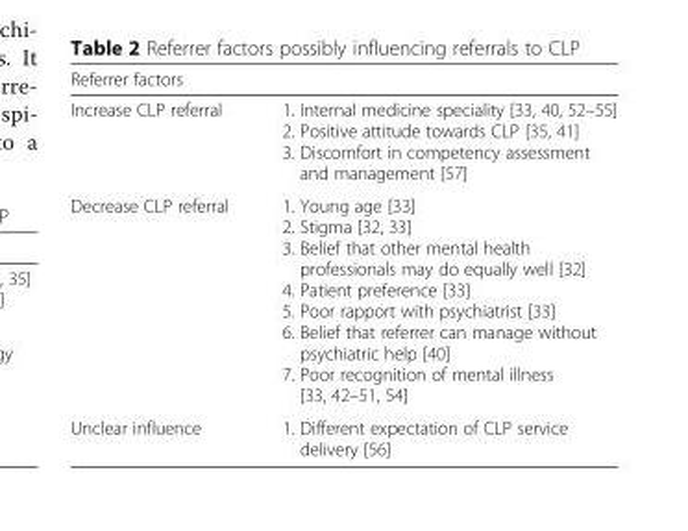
<table><thead><tr><td colspan="2">Referrer factors</td></tr><tr><td>Increase CLP referral</td><td>1. Internal medicine speciality [33, 40, 52–55] 2. Positive attitude towards CLP [35, 41] 3. Discomfort in competency assessment and management [57]</td></tr></thead><tbody><tr><td>Decrease CLP referral</td><td>1. Young age [33] 2. Stigma [32, 33] 3. Belief that other mental health professionals may do equally well [32] 4. Patient preference [33] 5. Poor rapport with psychiatrist [33] 6. Belief that referrer can manage without psychiatric help [40] 7. Poor recognition of mental illness [33, 42–51, 54]</td></tr><tr><td>Unclear influence</td><td>1. Different expectation of CLP service delivery [56]</td></tr></tbody></table>